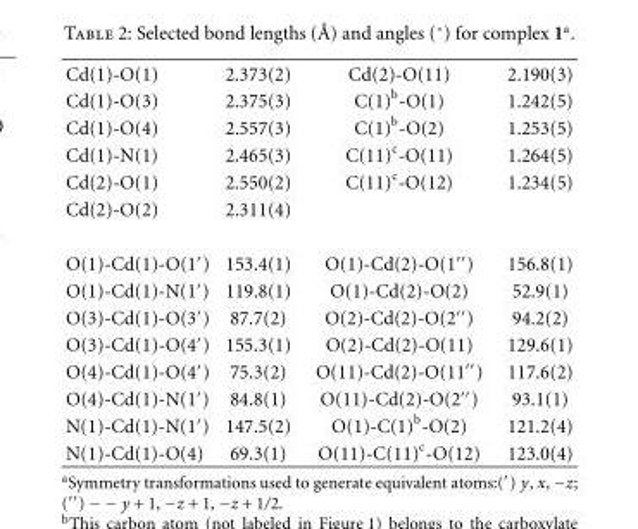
<table><tbody><tr><td>Cd(1)-O(1)</td><td>2.373(2)</td><td>Cd(2)-O(11)</td><td>2.190(3)</td></tr><tr><td>Cd(1)-O(3)</td><td>2.375(3)</td><td>C(1)<sup>b</sup>-O(1)</td><td>1.242(5)</td></tr><tr><td>Cd(1)-O(4)</td><td>2.557(3)</td><td>C(1)<sup>b</sup>-O(2)</td><td>1.253(5)</td></tr><tr><td>Cd(1)-N(1)</td><td>2.465(3)</td><td>C(11)<sup>c</sup>-O(11)</td><td>1.264(5)</td></tr><tr><td>Cd(2)-O(1)</td><td>2.550(2)</td><td>C(11)<sup>c</sup>-O(12)</td><td>1.234(5)</td></tr><tr><td>Cd(2)-O(2)</td><td>2.311(4)</td><td></td><td></td></tr><tr><td>O(1)-Cd(1)-O(1′)</td><td>153.4(1)</td><td>O(1)-Cd(2)-O(1′′)</td><td>156.8(1)</td></tr><tr><td>O(1)-Cd(1)-N(1′)</td><td>119.8(1)</td><td>O(1)-Cd(2)-O(2)</td><td>52.9(1)</td></tr><tr><td>O(3)-Cd(1)-O(3′)</td><td>87.7(2)</td><td>O(2)-Cd(2)-O(2′′)</td><td>94.2(2)</td></tr><tr><td>O(3)-Cd(1)-O(4′)</td><td>155.3(1)</td><td>O(2)-Cd(2)-O(11)</td><td>129.6(1)</td></tr><tr><td>O(4)-Cd(1)-O(4′)</td><td>75.3(2)</td><td>O(11)-Cd(2)-O(11′′)</td><td>117.6(2)</td></tr><tr><td>O(4)-Cd(1)-N(1′)</td><td>84.8(1)</td><td>O(11)-Cd(2)-O(2′′)</td><td>93.1(1)</td></tr><tr><td>N(1)-Cd(1)-N(1′)</td><td>147.5(2)</td><td>O(1)-C(1)<sup>b</sup>-O(2)</td><td>121.2(4)</td></tr><tr><td>N(1)-Cd(1)-O(4)</td><td>69.3(1)</td><td>O(11)-C(11)<sup>c</sup>-O(12)</td><td>123.0(4)</td></tr></tbody></table>